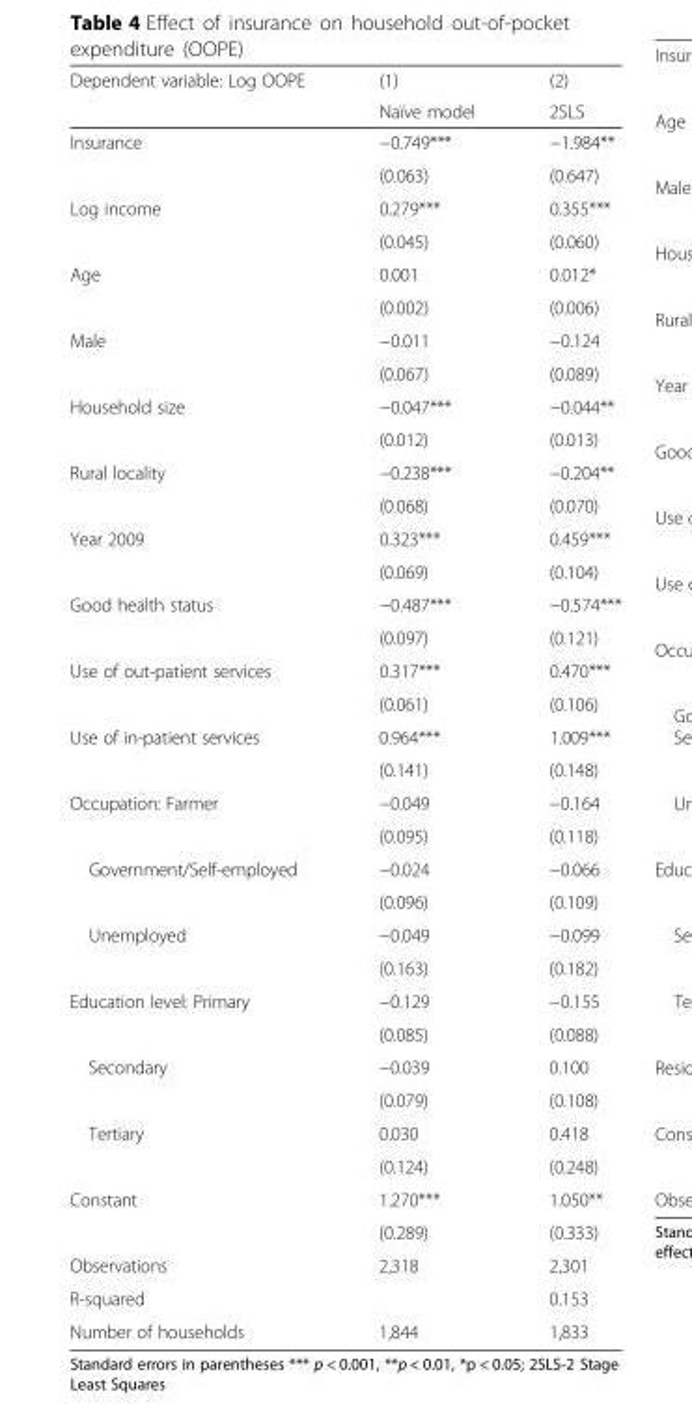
<table><thead><tr><td rowspan="2">Dependent variable: Log OOPE</td><td rowspan="2">(1) Naïve model</td><td rowspan="2">(2) 2SLS</td></tr><tr></tr></thead><tbody><tr><td rowspan="2">Insurance</td><td>−0.749***</td><td>−1.984**</td></tr><tr><td>(0.063)</td><td>(0.647)</td></tr><tr><td rowspan="2">Log income</td><td>0.279***</td><td>0.355***</td></tr><tr><td>(0.045)</td><td>(0.060)</td></tr><tr><td rowspan="2">Age</td><td>0.001</td><td>0.012*</td></tr><tr><td>(0.002)</td><td>(0.006)</td></tr><tr><td rowspan="2">Male</td><td>−0.011</td><td>−0.124</td></tr><tr><td>(0.067)</td><td>(0.089)</td></tr><tr><td rowspan="2">Household size</td><td>−0.047***</td><td>−0.044**</td></tr><tr><td>(0.012)</td><td>(0.013)</td></tr><tr><td rowspan="2">Rural locality</td><td>−0.238***</td><td>−0.204**</td></tr><tr><td>(0.068)</td><td>(0.070)</td></tr><tr><td rowspan="2">Year 2009</td><td>0.323***</td><td>0.459***</td></tr><tr><td>(0.069)</td><td>(0.104)</td></tr><tr><td rowspan="2">Good health status</td><td>−0.487***</td><td>−0.574***</td></tr><tr><td>(0.097)</td><td>(0.121)</td></tr><tr><td rowspan="2">Use of out-patient services</td><td>0.317***</td><td>0.470***</td></tr><tr><td>(0.061)</td><td>(0.106)</td></tr><tr><td rowspan="2">Use of in-patient services</td><td>0.964***</td><td>1.009***</td></tr><tr><td>(0.141)</td><td>(0.148)</td></tr><tr><td rowspan="2">Occupation: Farmer</td><td>−0.049</td><td>−0.164</td></tr><tr><td>(0.095)</td><td>(0.118)</td></tr><tr><td rowspan="2">Government/Self-employed</td><td>−0.024</td><td>−0.066</td></tr><tr><td>(0.096)</td><td>(0.109)</td></tr><tr><td rowspan="2">Unemployed</td><td>−0.049</td><td>−0.099</td></tr><tr><td>(0.163)</td><td>(0.182)</td></tr><tr><td rowspan="2">Education level: Primary</td><td>−0.129</td><td>−0.155</td></tr><tr><td>(0.085)</td><td>(0.088)</td></tr><tr><td rowspan="2">Secondary</td><td>−0.039</td><td>0.100</td></tr><tr><td>(0.079)</td><td>(0.108)</td></tr><tr><td rowspan="2">Tertiary</td><td>0.030</td><td>0.418</td></tr><tr><td>(0.124)</td><td>(0.248)</td></tr><tr><td rowspan="2">Constant</td><td>1.270***</td><td>1.050**</td></tr><tr><td>(0.289)</td><td>(0.333)</td></tr><tr><td>Observations</td><td>2,318</td><td>2,301</td></tr><tr><td>R-squared</td><td></td><td>0.153</td></tr><tr><td>Number of households</td><td>1,844</td><td>1,833</td></tr></tbody></table>